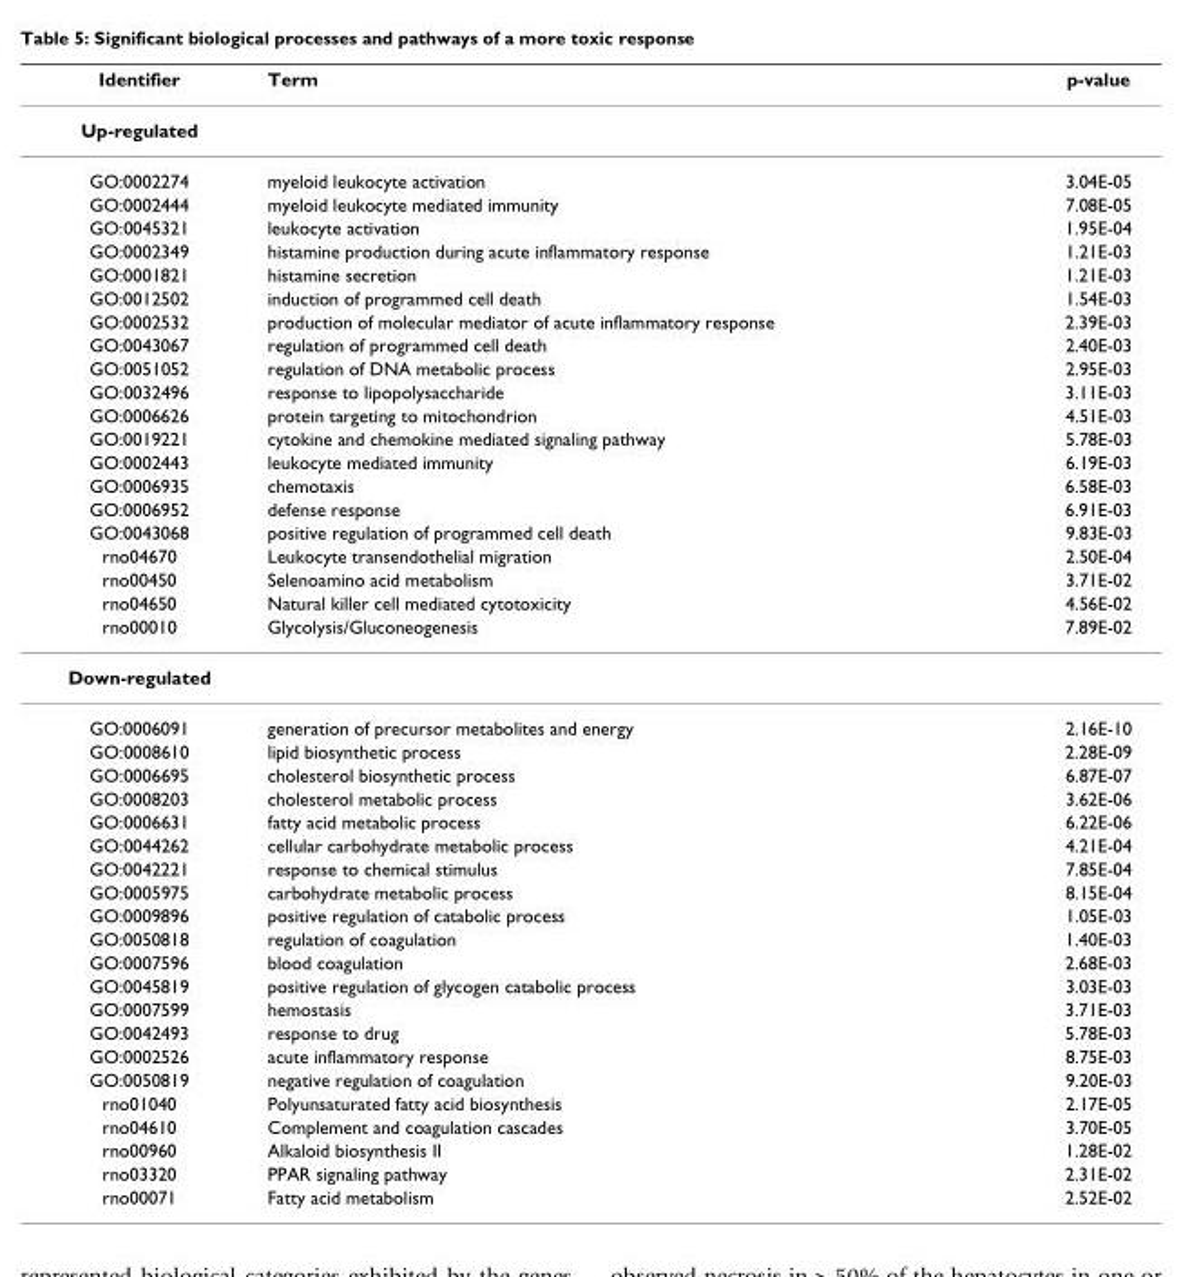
<table><thead><tr><td>Identifier</td><td>Term</td><td>p-value</td></tr></thead><tbody><tr><td colspan="3">Up-regulated</td></tr><tr><td>GO:0002274</td><td>myeloid leukocyte activation</td><td>3.04E-05</td></tr><tr><td>GO:0002444</td><td>myeloid leukocyte mediated immunity</td><td>7.08E-05</td></tr><tr><td>GO:0045321</td><td>leukocyte activation</td><td>1.95E-04</td></tr><tr><td>GO:0002349</td><td>histamine production during acute inflammatory response</td><td>1.21E-03</td></tr><tr><td>GO:0001821</td><td>histamine secretion</td><td>1.21E-03</td></tr><tr><td>GO:0012502</td><td>induction of programmed cell death</td><td>1.54E-03</td></tr><tr><td>GO:0002532</td><td>production of molecular mediator of acute inflammatory response</td><td>2.39E-03</td></tr><tr><td>GO:0043067</td><td>regulation of programmed cell death</td><td>2.40E-03</td></tr><tr><td>GO:0051052</td><td>regulation of DNA metabolic process</td><td>2.95E-03</td></tr><tr><td>GO:0032496</td><td>response to lipopolysaccharide</td><td>3.11E-03</td></tr><tr><td>GO:0006626</td><td>protein targeting to mitochondrion</td><td>4.51E-03</td></tr><tr><td>GO:0019221</td><td>cytokine and chemokine mediated signaling pathway</td><td>5.78E-03</td></tr><tr><td>GO:0002443</td><td>leukocyte mediated immunity</td><td>6.19E-03</td></tr><tr><td>GO:0006935</td><td>chemotaxis</td><td>6.58E-03</td></tr><tr><td>GO:0006952</td><td>defense response</td><td>6.91E-03</td></tr><tr><td>GO:0043068</td><td>positive regulation of programmed cell death</td><td>9.83E-03</td></tr><tr><td>rno04670</td><td>Leukocyte transendothelial migration</td><td>2.50E-04</td></tr><tr><td>rno00450</td><td>Selenoamino acid metabolism</td><td>3.71E-02</td></tr><tr><td>rno04650</td><td>Natural killer cell mediated cytotoxicity</td><td>4.56E-02</td></tr><tr><td>rno00010</td><td>Glycolysis/Gluconeogenesis</td><td>7.89E-02</td></tr><tr><td colspan="3">Down-regulated</td></tr><tr><td>GO:0006091</td><td>generation of precursor metabolites and energy</td><td>2.16E-10</td></tr><tr><td>GO:0008610</td><td>lipid biosynthetic process</td><td>2.28E-09</td></tr><tr><td>GO:0006695</td><td>cholesterol biosynthetic process</td><td>6.87E-07</td></tr><tr><td>GO:0008203</td><td>cholesterol metabolic process</td><td>3.62E-06</td></tr><tr><td>GO:0006631</td><td>fatty acid metabolic process</td><td>6.22E-06</td></tr><tr><td>GO:0044262</td><td>cellular carbohydrate metabolic process</td><td>4.21E-04</td></tr><tr><td>GO:0042221</td><td>response to chemical stimulus</td><td>7.85E-04</td></tr><tr><td>GO:0005975</td><td>carbohydrate metabolic process</td><td>8.15E-04</td></tr><tr><td>GO:0009896</td><td>positive regulation of catabolic process</td><td>1.05E-03</td></tr><tr><td>GO:0050818</td><td>regulation of coagulation</td><td>1.40E-03</td></tr><tr><td>GO:0007596</td><td>blood coagulation</td><td>2.68E-03</td></tr><tr><td>GO:0045819</td><td>positive regulation of glycogen catabolic process</td><td>3.03E-03</td></tr><tr><td>GO:0007599</td><td>hemostasis</td><td>3.71E-03</td></tr><tr><td>GO:0042493</td><td>response to drug</td><td>5.78E-03</td></tr><tr><td>GO:0002526</td><td>acute inflammatory response</td><td>8.75E-03</td></tr><tr><td>GO:0050819</td><td>negative regulation of coagulation</td><td>9.20E-03</td></tr><tr><td>rno01040</td><td>Polyunsaturated fatty acid biosynthesis</td><td>2.17E-05</td></tr><tr><td>rno04610</td><td>Complement and coagulation cascades</td><td>3.70E-05</td></tr><tr><td>rno00960</td><td>Alkaloid biosynthesis II</td><td>1.28E-02</td></tr><tr><td>rno03320</td><td>PPAR signaling pathway</td><td>2.31E-02</td></tr><tr><td>rno00071</td><td>Fatty acid metabolism</td><td>2.52E-02</td></tr></tbody></table>